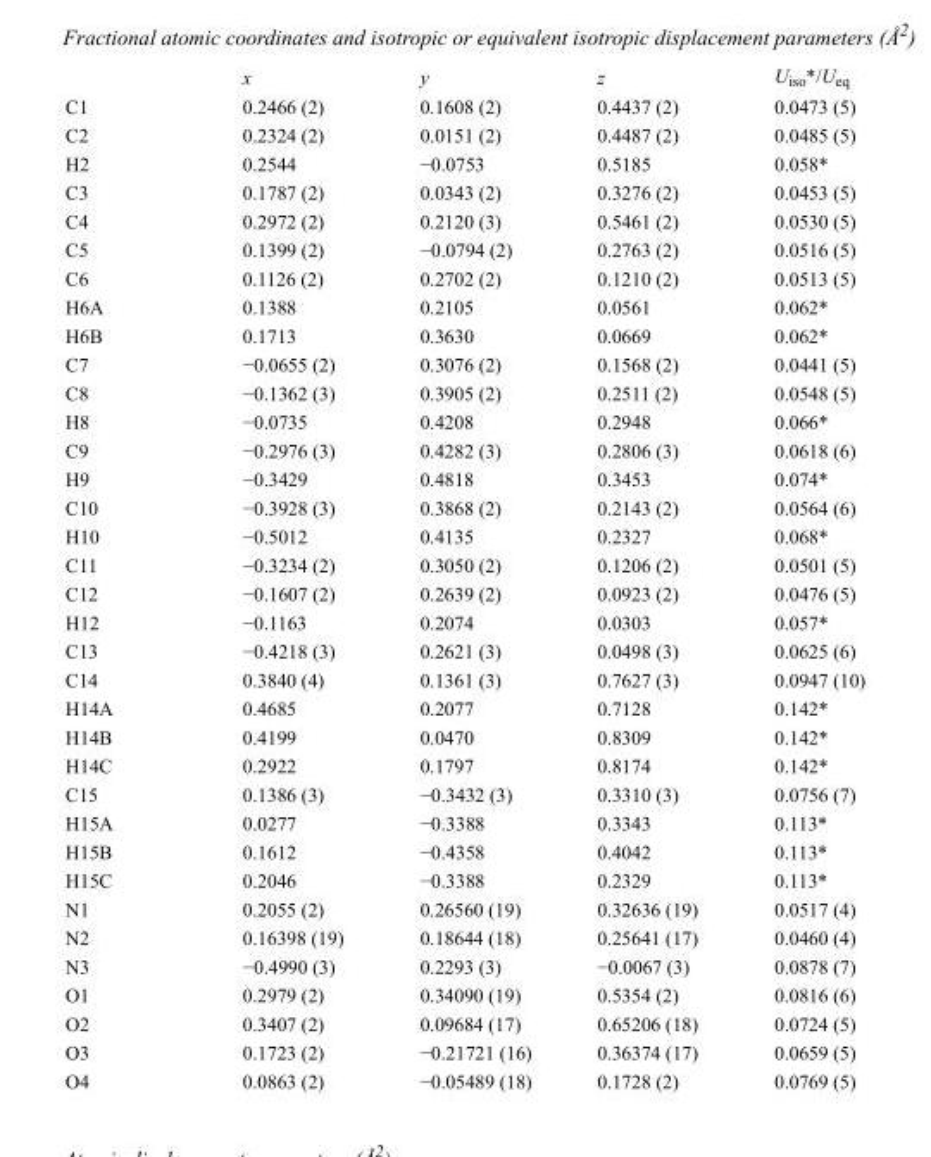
<table><thead><tr><td></td><td>x</td><td>y</td><td>z</td><td>U<sub>iso</sub>*/U<sub>eq</sub></td></tr></thead><tbody><tr><td>C1</td><td>0.2466 (2)</td><td>0.1608 (2)</td><td>0.4437 (2)</td><td>0.0473 (5)</td></tr><tr><td>C2</td><td>0.2324 (2)</td><td>0.0151 (2)</td><td>0.4487 (2)</td><td>0.0485 (5)</td></tr><tr><td>H2</td><td>0.2544</td><td>−0.0753</td><td>0.5185</td><td>0.058*</td></tr><tr><td>C3</td><td>0.1787 (2)</td><td>0.0343 (2)</td><td>0.3276 (2)</td><td>0.0453 (5)</td></tr><tr><td>C4</td><td>0.2972 (2)</td><td>0.2120 (3)</td><td>0.5461 (2)</td><td>0.0530 (5)</td></tr><tr><td>C5</td><td>0.1399 (2)</td><td>−0.0794 (2)</td><td>0.2763 (2)</td><td>0.0516 (5)</td></tr><tr><td>C6</td><td>0.1126 (2)</td><td>0.2702 (2)</td><td>0.1210 (2)</td><td>0.0513 (5)</td></tr><tr><td>H6A</td><td>0.1388</td><td>0.2105</td><td>0.0561</td><td>0.062*</td></tr><tr><td>H6B</td><td>0.1713</td><td>0.3630</td><td>0.0669</td><td>0.062*</td></tr><tr><td>C7</td><td>−0.0655 (2)</td><td>0.3076 (2)</td><td>0.1568 (2)</td><td>0.0441 (5)</td></tr><tr><td>C8</td><td>−0.1362 (3)</td><td>0.3905 (2)</td><td>0.2511 (2)</td><td>0.0548 (5)</td></tr><tr><td>H8</td><td>−0.0735</td><td>0.4208</td><td>0.2948</td><td>0.066*</td></tr><tr><td>C9</td><td>−0.2976 (3)</td><td>0.4282 (3)</td><td>0.2806 (3)</td><td>0.0618 (6)</td></tr><tr><td>H9</td><td>−0.3429</td><td>0.4818</td><td>0.3453</td><td>0.074*</td></tr><tr><td>C10</td><td>−0.3928 (3)</td><td>0.3868 (2)</td><td>0.2143 (2)</td><td>0.0564 (6)</td></tr><tr><td>H10</td><td>−0.5012</td><td>0.4135</td><td>0.2327</td><td>0.068*</td></tr><tr><td>C11</td><td>−0.3234 (2)</td><td>0.3050 (2)</td><td>0.1206 (2)</td><td>0.0501 (5)</td></tr><tr><td>C12</td><td>−0.1607 (2)</td><td>0.2639 (2)</td><td>0.0923 (2)</td><td>0.0476 (5)</td></tr><tr><td>H12</td><td>−0.1163</td><td>0.2074</td><td>0.0303</td><td>0.057*</td></tr><tr><td>C13</td><td>−0.4218 (3)</td><td>0.2621 (3)</td><td>0.0498 (3)</td><td>0.0625 (6)</td></tr><tr><td>C14</td><td>0.3840 (4)</td><td>0.1361 (3)</td><td>0.7627 (3)</td><td>0.0947 (10)</td></tr><tr><td>H14A</td><td>0.4685</td><td>0.2077</td><td>0.7128</td><td>0.142*</td></tr><tr><td>H14B</td><td>0.4199</td><td>0.0470</td><td>0.8309</td><td>0.142*</td></tr><tr><td>H14C</td><td>0.2922</td><td>0.1797</td><td>0.8174</td><td>0.142*</td></tr><tr><td>C15</td><td>0.1386 (3)</td><td>−0.3432 (3)</td><td>0.3310 (3)</td><td>0.0756 (7)</td></tr><tr><td>H15A</td><td>0.0277</td><td>−0.3388</td><td>0.3343</td><td>0.113*</td></tr><tr><td>H15B</td><td>0.1612</td><td>−0.4358</td><td>0.4042</td><td>0.113*</td></tr><tr><td>H15C</td><td>0.2046</td><td>−0.3388</td><td>0.2329</td><td>0.113*</td></tr><tr><td>N1</td><td>0.2055 (2)</td><td>0.26560 (19)</td><td>0.32636 (19)</td><td>0.0517 (4)</td></tr><tr><td>N2</td><td>0.16398 (19)</td><td>0.18644 (18)</td><td>0.25641 (17)</td><td>0.0460 (4)</td></tr><tr><td>N3</td><td>−0.4990 (3)</td><td>0.2293 (3)</td><td>−0.0067 (3)</td><td>0.0878 (7)</td></tr><tr><td>O1</td><td>0.2979 (2)</td><td>0.34090 (19)</td><td>0.5354 (2)</td><td>0.0816 (6)</td></tr><tr><td>O2</td><td>0.3407 (2)</td><td>0.09684 (17)</td><td>0.65206 (18)</td><td>0.0724 (5)</td></tr><tr><td>O3</td><td>0.1723 (2)</td><td>−0.21721 (16)</td><td>0.36374 (17)</td><td>0.0659 (5)</td></tr><tr><td>O4</td><td>0.0863 (2)</td><td>−0.05489 (18)</td><td>0.1728 (2)</td><td>0.0769 (5)</td></tr></tbody></table>